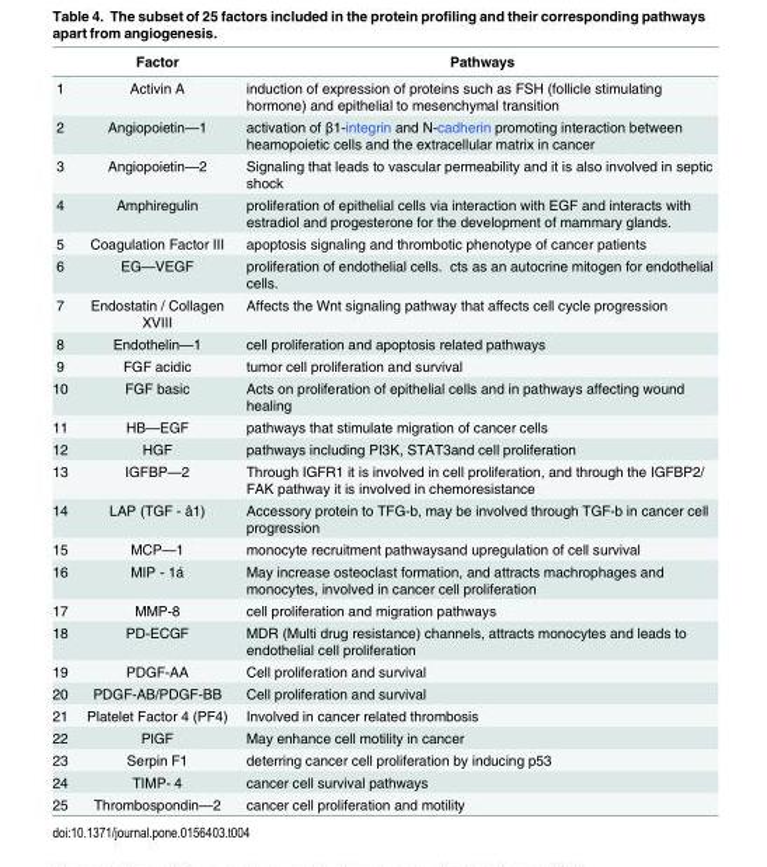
<table><thead><tr><td></td><td>Factor</td><td>Pathways</td></tr></thead><tbody><tr><td>1</td><td>Activin A</td><td>induction of expression of proteins such as FSH (follicle stimulating hormone) and epithelial to mesenchymal transition</td></tr><tr><td>2</td><td>Angiopoietin—1</td><td>activation of β1-integrin and N-cadherin promoting interaction between heamopoietic cells and the extracellular matrix in cancer</td></tr><tr><td>3</td><td>Angiopoietin—2</td><td>Signaling that leads to vascular permeability and it is also involved in septic shock</td></tr><tr><td>4</td><td>Amphiregulin</td><td>proliferation of epithelial cells via interaction with EGF and interacts with estradiol and progesterone for the development of mammary glands.</td></tr><tr><td>5</td><td>Coagulation Factor III</td><td>apoptosis signaling and thrombotic phenotype of cancer patients</td></tr><tr><td>6</td><td>EG—VEGF</td><td>proliferation of endothelial cells. Αcts as an autocrine mitogen for endothelial cells.</td></tr><tr><td>7</td><td>Endostatin / Collagen XVIII</td><td>Affects the Wnt signaling pathway that affects cell cycle progression</td></tr><tr><td>8</td><td>Endothelin—1</td><td>cell proliferation and apoptosis related pathways</td></tr><tr><td>9</td><td>FGF acidic</td><td>tumor cell proliferation and survival</td></tr><tr><td>10</td><td>FGF basic</td><td>Acts on proliferation of epithelial cells and in pathways affecting wound healing</td></tr><tr><td>11</td><td>HB—EGF</td><td>pathways that stimulate migration of cancer cells</td></tr><tr><td>12</td><td>HGF</td><td>pathways including PI3K, STAT3and cell proliferation</td></tr><tr><td>13</td><td>IGFBP—2</td><td>Through IGFR1 it is involved in cell proliferation, and through the IGFBP2/ FAK pathway it is involved in chemoresistance</td></tr><tr><td>14</td><td>LAP (TGF - â1)</td><td>Accessory protein to TFG-b, may be involved through TGF-b in cancer cell progression</td></tr><tr><td>15</td><td>MCP—1</td><td>monocyte recruitment pathwaysand upregulation of cell survival</td></tr><tr><td>16</td><td>MIP - 1á</td><td>May increase osteoclast formation, and attracts machrophages and monocytes, involved in cancer cell proliferation</td></tr><tr><td>17</td><td>MMP-8</td><td>cell proliferation and migration pathways</td></tr><tr><td>18</td><td>PD-ECGF</td><td>MDR (Multi drug resistance) channels, attracts monocytes and leads to endothelial cell proliferation</td></tr><tr><td>19</td><td>PDGF-AA</td><td>Cell proliferation and survival</td></tr><tr><td>20</td><td>PDGF-AB/PDGF-BB</td><td>Cell proliferation and survival</td></tr><tr><td>21</td><td>Platelet Factor 4 (PF4)</td><td>Involved in cancer related thrombosis</td></tr><tr><td>22</td><td>PlGF</td><td>May enhance cell motility in cancer</td></tr><tr><td>23</td><td>Serpin F1</td><td>deterring cancer cell proliferation by inducing p53</td></tr><tr><td>24</td><td>TIMP- 4</td><td>cancer cell survival pathways</td></tr><tr><td>25</td><td>Thrombospondin—2</td><td>cancer cell proliferation and motility</td></tr></tbody></table>